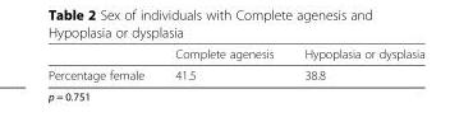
<table><thead><tr><td></td><td>Complete agenesis</td><td>Hypoplasia or dysplasia</td></tr></thead><tbody><tr><td>Percentage female</td><td>41.5</td><td>38.8</td></tr></tbody></table>